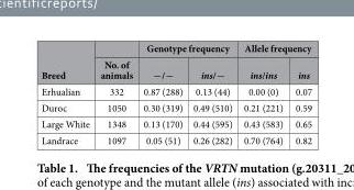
<table><thead><tr><td rowspan="2">Breed</td><td rowspan="2">No. of animals</td><td colspan="2">Genotype frequency</td><td colspan="2">Allele frequency</td></tr><tr><td>−/−</td><td>ins/−</td><td>ins/ins</td><td>ins</td></tr></thead><tbody><tr><td>Erhualian</td><td>332</td><td>0.87 (288)</td><td>0.13 (44)</td><td>0.00 (0)</td><td>0.07</td></tr><tr><td>Duroc</td><td>1050</td><td>0.30 (319)</td><td>0.49 (510)</td><td>0.21 (221)</td><td>0.59</td></tr><tr><td>Large White</td><td>1348</td><td>0.13 (170)</td><td>0.44 (595)</td><td>0.43 (583)</td><td>0.65</td></tr><tr><td>Landrace</td><td>1097</td><td>0.05 (51)</td><td>0.26 (282)</td><td>0.70 (764)</td><td>0.82</td></tr></tbody></table>